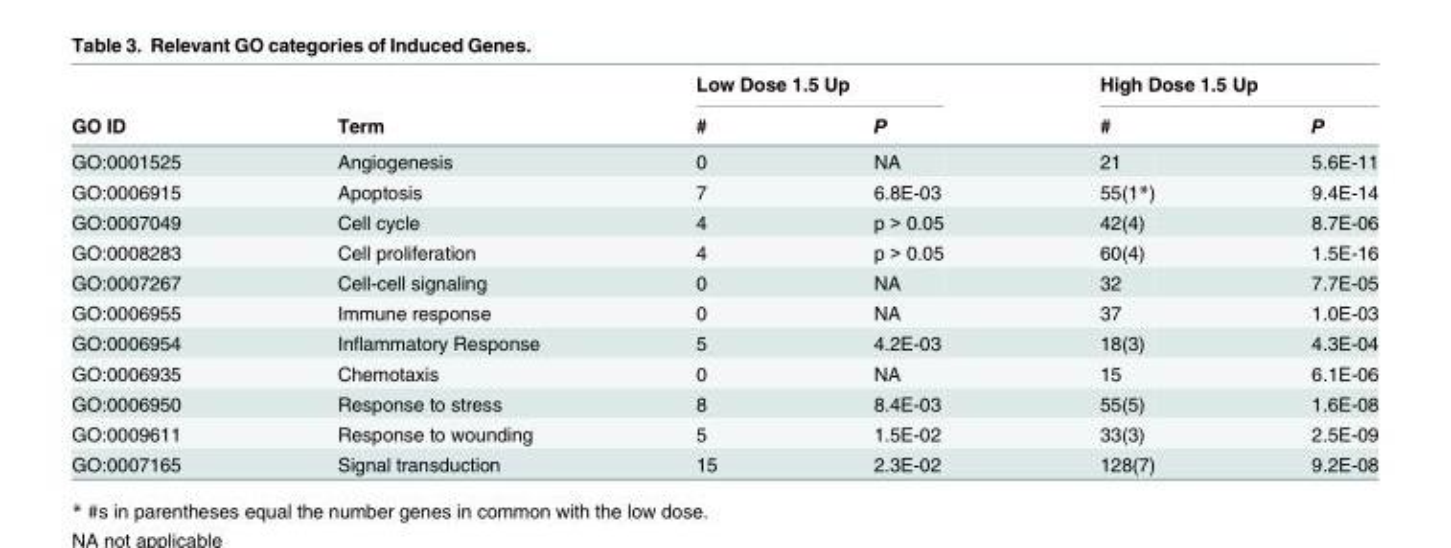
<table><thead><tr><td rowspan="2">GO ID</td><td rowspan="2">Term</td><td colspan="2">Low Dose 1.5 Up</td><td colspan="2">High Dose 1.5 Up</td></tr><tr><td>#</td><td>P</td><td>#</td><td>P</td></tr></thead><tbody><tr><td>GO:0001525</td><td>Angiogenesis</td><td>0</td><td>NA</td><td>21</td><td>5.6E-11</td></tr><tr><td>GO:0006915</td><td>Apoptosis</td><td>7</td><td>6.8E-03</td><td>55(1*)</td><td>9.4E-14</td></tr><tr><td>GO:0007049</td><td>Cell cycle</td><td>4</td><td>p &gt; 0.05</td><td>42(4)</td><td>8.7E-06</td></tr><tr><td>GO:0008283</td><td>Cell proliferation</td><td>4</td><td>p &gt; 0.05</td><td>60(4)</td><td>1.5E-16</td></tr><tr><td>GO:0007267</td><td>Cell-cell signaling</td><td>0</td><td>NA</td><td>32</td><td>7.7E-05</td></tr><tr><td>GO:0006955</td><td>Immune response</td><td>0</td><td>NA</td><td>37</td><td>1.0E-03</td></tr><tr><td>GO:0006954</td><td>Inflammatory Response</td><td>5</td><td>4.2E-03</td><td>18(3)</td><td>4.3E-04</td></tr><tr><td>GO:0006935</td><td>Chemotaxis</td><td>0</td><td>NA</td><td>15</td><td>6.1E-06</td></tr><tr><td>GO:0006950</td><td>Response to stress</td><td>8</td><td>8.4E-03</td><td>55(5)</td><td>1.6E-08</td></tr><tr><td>GO:0009611</td><td>Response to wounding</td><td>5</td><td>1.5E-02</td><td>33(3)</td><td>2.5E-09</td></tr><tr><td>GO:0007165</td><td>Signal transduction</td><td>15</td><td>2.3E-02</td><td>128(7)</td><td>9.2E-08</td></tr></tbody></table>